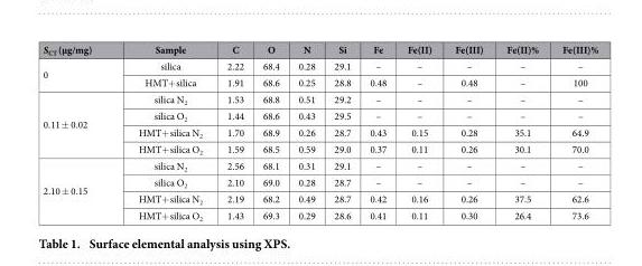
<table><thead><tr><td>S<sub>CT</sub> (μg/mg)</td><td>Sample</td><td>C</td><td>O</td><td>N</td><td>Si</td><td>Fe</td><td>Fe(II)</td><td>Fe(III)</td><td>Fe(II)%</td><td>Fe(III)%</td></tr></thead><tbody><tr><td rowspan="2">0</td><td>silica</td><td>2.22</td><td>68.4</td><td>0.28</td><td>29.1</td><td>–</td><td>–</td><td>–</td><td>–</td><td>–</td></tr><tr><td>HMT+ silica</td><td>1.91</td><td>68.6</td><td>0.25</td><td>28.8</td><td>0.48</td><td>–</td><td>0.48</td><td>–</td><td>100</td></tr><tr><td rowspan="4">0.11 ± 0.02</td><td>silica N<sub>2</sub></td><td>1.53</td><td>68.8</td><td>0.51</td><td>29.2</td><td>–</td><td>–</td><td>–</td><td>–</td><td>–</td></tr><tr><td>silica O<sub>2</sub></td><td>1.44</td><td>68.6</td><td>0.43</td><td>29.5</td><td>–</td><td>–</td><td>–</td><td>–</td><td>–</td></tr><tr><td>HMT+ silica N<sub>2</sub></td><td>1.70</td><td>68.9</td><td>0.26</td><td>28.7</td><td>0.43</td><td>0.15</td><td>0.28</td><td>35.1</td><td>64.9</td></tr><tr><td>HMT+ silica O<sub>2</sub></td><td>1.59</td><td>68.5</td><td>0.59</td><td>29.0</td><td>0.37</td><td>0.11</td><td>0.26</td><td>30.1</td><td>70.0</td></tr><tr><td rowspan="4">2.10 ± 0.15</td><td>silica N<sub>2</sub></td><td>2.56</td><td>68.1</td><td>0.31</td><td>29.1</td><td>–</td><td>–</td><td>–</td><td>–</td><td>–</td></tr><tr><td>silica O<sub>2</sub></td><td>2.10</td><td>69.0</td><td>0.28</td><td>28.7</td><td>–</td><td>–</td><td>–</td><td>–</td><td>–</td></tr><tr><td>HMT+ silica N<sub>2</sub></td><td>2.19</td><td>68.2</td><td>0.49</td><td>28.7</td><td>0.42</td><td>0.16</td><td>0.26</td><td>37.5</td><td>62.6</td></tr><tr><td>HMT+ silica O<sub>2</sub></td><td>1.43</td><td>69.3</td><td>0.29</td><td>28.6</td><td>0.41</td><td>0.11</td><td>0.30</td><td>26.4</td><td>73.6</td></tr></tbody></table>